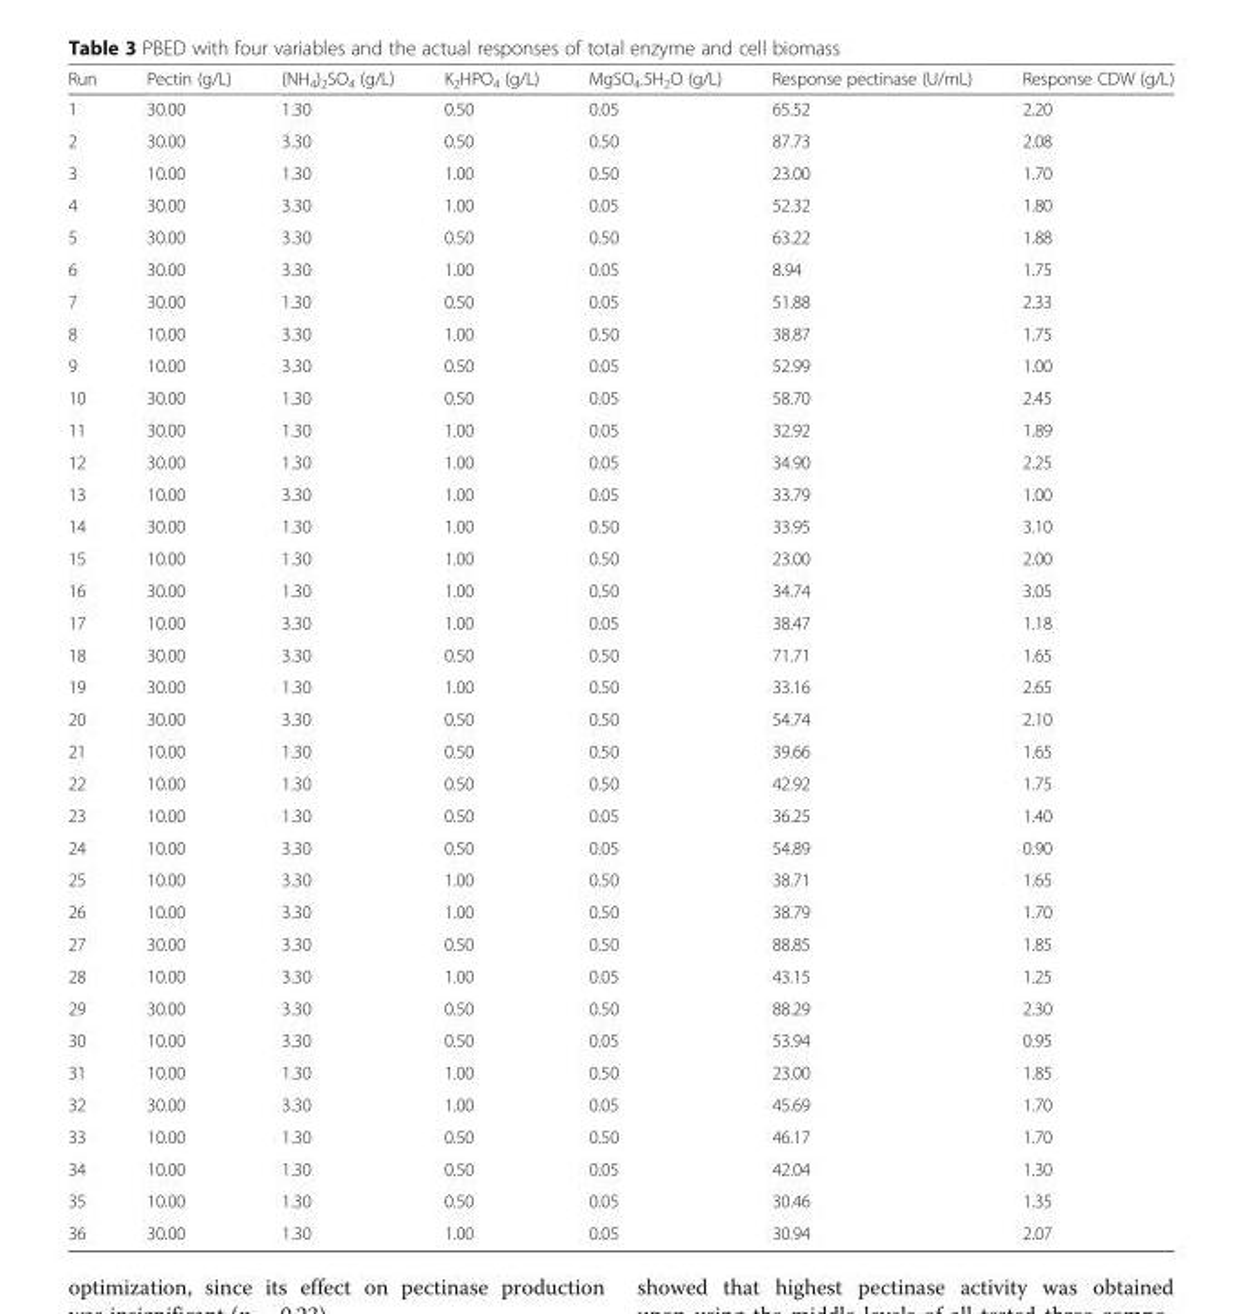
<table><thead><tr><td>Run</td><td>Pectin (g/L)</td><td>(NH<sub>4</sub>)<sub>2</sub>SO<sub>4</sub> (g/L)</td><td>K<sub>2</sub>HPO<sub>4</sub> (g/L)</td><td>MgSO<sub>4</sub>.5H<sub>2</sub>O (g/L)</td><td>Response pectinase (U/mL)</td><td>Response CDW (g/L)</td></tr></thead><tbody><tr><td>1</td><td>30.00</td><td>1.30</td><td>0.50</td><td>0.05</td><td>65.52</td><td>2.20</td></tr><tr><td>2</td><td>30.00</td><td>3.30</td><td>0.50</td><td>0.50</td><td>87.73</td><td>2.08</td></tr><tr><td>3</td><td>10.00</td><td>1.30</td><td>1.00</td><td>0.50</td><td>23.00</td><td>1.70</td></tr><tr><td>4</td><td>30.00</td><td>3.30</td><td>1.00</td><td>0.05</td><td>52.32</td><td>1.80</td></tr><tr><td>5</td><td>30.00</td><td>3.30</td><td>0.50</td><td>0.50</td><td>63.22</td><td>1.88</td></tr><tr><td>6</td><td>30.00</td><td>3.30</td><td>1.00</td><td>0.05</td><td>8.94</td><td>1.75</td></tr><tr><td>7</td><td>30.00</td><td>1.30</td><td>0.50</td><td>0.05</td><td>51.88</td><td>2.33</td></tr><tr><td>8</td><td>10.00</td><td>3.30</td><td>1.00</td><td>0.50</td><td>38.87</td><td>1.75</td></tr><tr><td>9</td><td>10.00</td><td>3.30</td><td>0.50</td><td>0.05</td><td>52.99</td><td>1.00</td></tr><tr><td>10</td><td>30.00</td><td>1.30</td><td>0.50</td><td>0.05</td><td>58.70</td><td>2.45</td></tr><tr><td>11</td><td>30.00</td><td>1.30</td><td>1.00</td><td>0.05</td><td>32.92</td><td>1.89</td></tr><tr><td>12</td><td>30.00</td><td>1.30</td><td>1.00</td><td>0.05</td><td>34.90</td><td>2.25</td></tr><tr><td>13</td><td>10.00</td><td>3.30</td><td>1.00</td><td>0.05</td><td>33.79</td><td>1.00</td></tr><tr><td>14</td><td>30.00</td><td>1.30</td><td>1.00</td><td>0.50</td><td>33.95</td><td>3.10</td></tr><tr><td>15</td><td>10.00</td><td>1.30</td><td>1.00</td><td>0.50</td><td>23.00</td><td>2.00</td></tr><tr><td>16</td><td>30.00</td><td>1.30</td><td>1.00</td><td>0.50</td><td>34.74</td><td>3.05</td></tr><tr><td>17</td><td>10.00</td><td>3.30</td><td>1.00</td><td>0.05</td><td>38.47</td><td>1.18</td></tr><tr><td>18</td><td>30.00</td><td>3.30</td><td>0.50</td><td>0.50</td><td>71.71</td><td>1.65</td></tr><tr><td>19</td><td>30.00</td><td>1.30</td><td>1.00</td><td>0.50</td><td>33.16</td><td>2.65</td></tr><tr><td>20</td><td>30.00</td><td>3.30</td><td>0.50</td><td>0.50</td><td>54.74</td><td>2.10</td></tr><tr><td>21</td><td>10.00</td><td>1.30</td><td>0.50</td><td>0.50</td><td>39.66</td><td>1.65</td></tr><tr><td>22</td><td>10.00</td><td>1.30</td><td>0.50</td><td>0.50</td><td>42.92</td><td>1.75</td></tr><tr><td>23</td><td>10.00</td><td>1.30</td><td>0.50</td><td>0.05</td><td>36.25</td><td>1.40</td></tr><tr><td>24</td><td>10.00</td><td>3.30</td><td>0.50</td><td>0.05</td><td>54.89</td><td>0.90</td></tr><tr><td>25</td><td>10.00</td><td>3.30</td><td>1.00</td><td>0.50</td><td>38.71</td><td>1.65</td></tr><tr><td>26</td><td>10.00</td><td>3.30</td><td>1.00</td><td>0.50</td><td>38.79</td><td>1.70</td></tr><tr><td>27</td><td>30.00</td><td>3.30</td><td>0.50</td><td>0.50</td><td>88.85</td><td>1.85</td></tr><tr><td>28</td><td>10.00</td><td>3.30</td><td>1.00</td><td>0.05</td><td>43.15</td><td>1.25</td></tr><tr><td>29</td><td>30.00</td><td>3.30</td><td>0.50</td><td>0.50</td><td>88.29</td><td>2.30</td></tr><tr><td>30</td><td>10.00</td><td>3.30</td><td>0.50</td><td>0.05</td><td>53.94</td><td>0.95</td></tr><tr><td>31</td><td>10.00</td><td>1.30</td><td>1.00</td><td>0.50</td><td>23.00</td><td>1.85</td></tr><tr><td>32</td><td>30.00</td><td>3.30</td><td>1.00</td><td>0.05</td><td>45.69</td><td>1.70</td></tr><tr><td>33</td><td>10.00</td><td>1.30</td><td>0.50</td><td>0.50</td><td>46.17</td><td>1.70</td></tr><tr><td>34</td><td>10.00</td><td>1.30</td><td>0.50</td><td>0.05</td><td>42.04</td><td>1.30</td></tr><tr><td>35</td><td>10.00</td><td>1.30</td><td>0.50</td><td>0.05</td><td>30.46</td><td>1.35</td></tr><tr><td>36</td><td>30.00</td><td>1.30</td><td>1.00</td><td>0.05</td><td>30.94</td><td>2.07</td></tr></tbody></table>